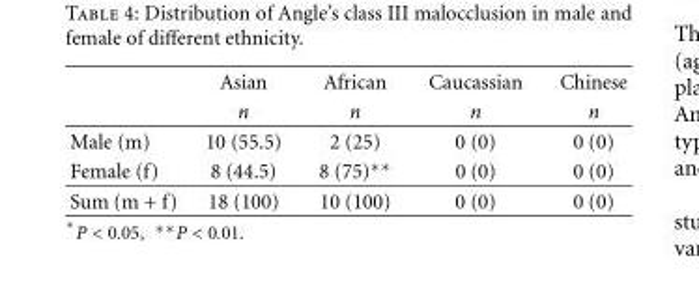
<table><thead><tr><td rowspan="2"></td><td rowspan="2">Asian n</td><td rowspan="2">African n</td><td rowspan="2">Caucassian n</td><td rowspan="2">Chinese n</td></tr><tr></tr></thead><tbody><tr><td>Male (m)</td><td>10 (55.5)</td><td>2 (25)</td><td>0 (0)</td><td>0 (0)</td></tr><tr><td>Female (f)</td><td>8 (44.5)</td><td>8 (75)∗∗</td><td>0 (0)</td><td>0 (0)</td></tr><tr><td>Sum (m + f)</td><td>18 (100)</td><td>10 (100)</td><td>0 (0)</td><td>0 (0)</td></tr></tbody></table>